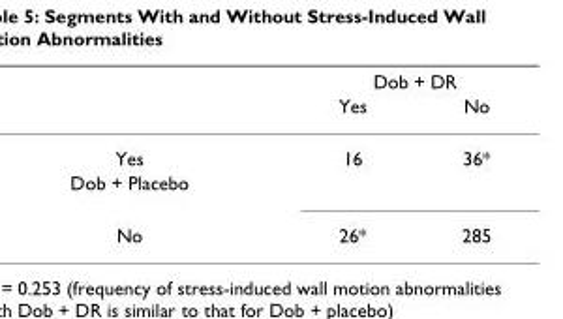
<table><thead><tr><td rowspan="2"></td><td colspan="2">Dob + DR</td></tr><tr><td>Yes</td><td>No</td></tr></thead><tbody><tr><td>Yes</td><td>16</td><td>36*</td></tr><tr><td colspan="3">Dob + Placebo</td></tr><tr><td>No</td><td>26*</td><td>285</td></tr></tbody></table>